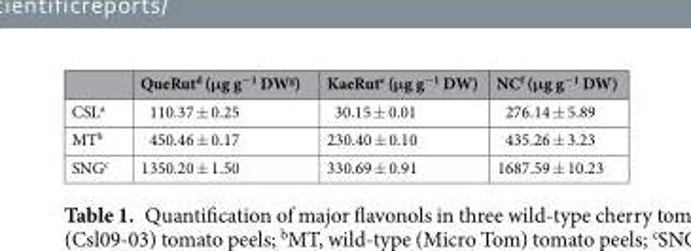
<table><thead><tr><td></td><td>QueRut<sup>d</sup> (μg g<sup>−1</sup> DW<sup>g</sup>)</td><td>KaeRut<sup>e</sup> (μg g<sup>−1</sup> DW)</td><td>NC<sup>f</sup> (μg g<sup>−1</sup> DW)</td></tr></thead><tbody><tr><td>CSL<sup>a</sup></td><td>110.37 ± 0.25</td><td>30.15 ± 0.01</td><td>276.14 ± 5.89</td></tr><tr><td>MT<sup>b</sup></td><td>450.46 ± 0.17</td><td>230.40 ± 0.10</td><td>435.26 ± 3.23</td></tr><tr><td>SNG<sup>c</sup></td><td>1350.20 ± 1.50</td><td>330.69 ± 0.91</td><td>1687.59 ± 10.23</td></tr></tbody></table>